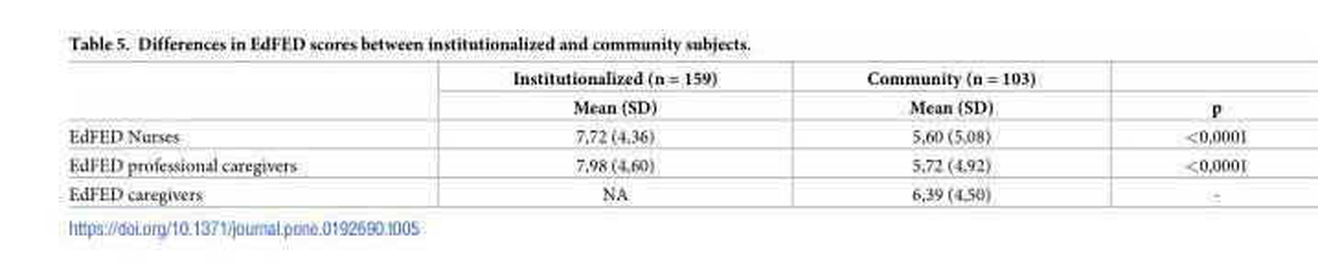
<table><thead><tr><td rowspan="2"></td><td rowspan="2">Institutionalized (n = 159) Mean (SD)</td><td rowspan="2">Community (n = 103) Mean (SD)</td><td rowspan="2">p</td></tr><tr></tr></thead><tbody><tr><td>EdFED Nurses</td><td>7,72 (4,36)</td><td>5,60 (5,08)</td><td>&lt;0,0001</td></tr><tr><td>EdFED professional caregivers</td><td>7,98 (4,60)</td><td>5,72 (4,92)</td><td>&lt;0,0001</td></tr><tr><td>EdFED caregivers</td><td>NA</td><td>6,39 (4,50)</td><td>-</td></tr></tbody></table>